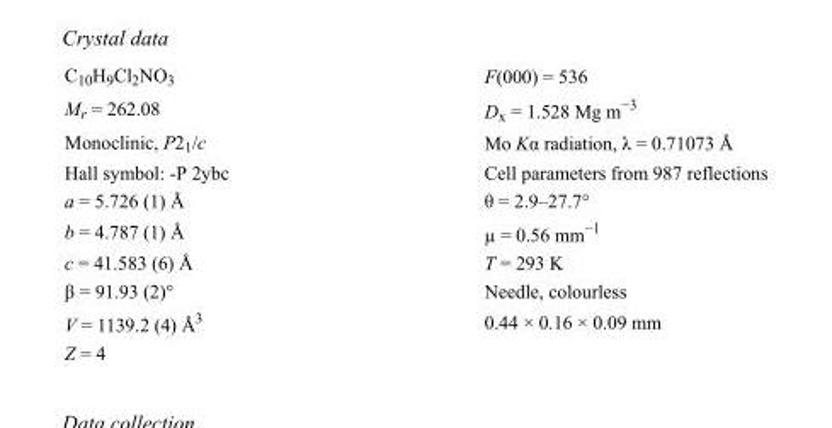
<table><tbody><tr><td>C<sub>10</sub>H<sub>9</sub>Cl<sub>2</sub>NO<sub>3</sub></td><td>F(000) = 536</td></tr><tr><td>M<sub>r</sub> = 262.08</td><td>D<sub>x</sub> = 1.528 Mg m<sup>−3</sup></td></tr><tr><td>Monoclinic, P2<sub>1</sub>/c</td><td>Mo Kα radiation, λ = 0.71073 Å</td></tr><tr><td>Hall symbol: -P 2ybc</td><td>Cell parameters from 987 reflections</td></tr><tr><td>a = 5.726 (1) Å</td><td>θ = 2.9–27.7°</td></tr><tr><td>b = 4.787 (1) Å</td><td>µ = 0.56 mm<sup>−1</sup></td></tr><tr><td>c = 41.583 (6) Å</td><td>T = 293 K</td></tr><tr><td>β = 91.93 (2)°</td><td>Needle, colourless</td></tr><tr><td>V = 1139.2 (4) Å<sup>3</sup></td><td>0.44 × 0.16 × 0.09 mm</td></tr><tr><td>Z = 4</td><td></td></tr></tbody></table>